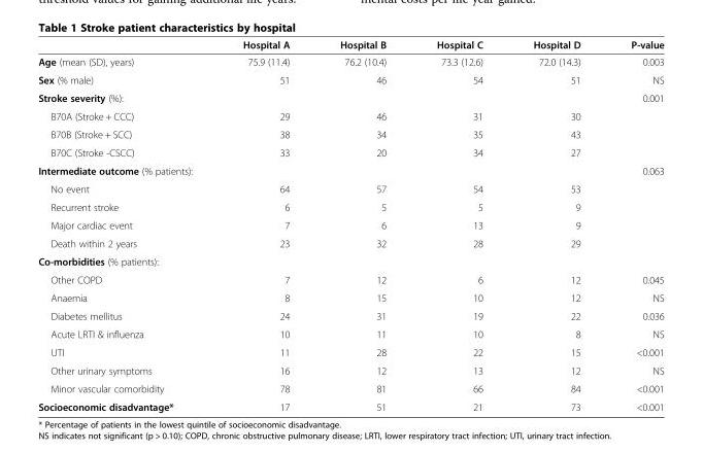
<table><thead><tr><td></td><td>Hospital A</td><td>Hospital B</td><td>Hospital C</td><td>Hospital D</td><td>P-value</td></tr></thead><tbody><tr><td>Age (mean (SD), years)</td><td>75.9 (11.4)</td><td>76.2 (10.4)</td><td>73.3 (12.6)</td><td>72.0 (14.3)</td><td>0.003</td></tr><tr><td>Sex (% male)</td><td>51</td><td>46</td><td>54</td><td>51</td><td>NS</td></tr><tr><td>Stroke severity (%):</td><td></td><td></td><td></td><td></td><td>0.001</td></tr><tr><td>B70A (Stroke + CCC)</td><td>29</td><td>46</td><td>31</td><td>30</td><td></td></tr><tr><td>B70B (Stroke + SCC)</td><td>38</td><td>34</td><td>35</td><td>43</td><td></td></tr><tr><td>B70C (Stroke -CSCC)</td><td>33</td><td>20</td><td>34</td><td>27</td><td></td></tr><tr><td>Intermediate outcome (% patients):</td><td></td><td></td><td></td><td></td><td>0.063</td></tr><tr><td>No event</td><td>64</td><td>57</td><td>54</td><td>53</td><td></td></tr><tr><td>Recurrent stroke</td><td>6</td><td>5</td><td>5</td><td>9</td><td></td></tr><tr><td>Major cardiac event</td><td>7</td><td>6</td><td>13</td><td>9</td><td></td></tr><tr><td>Death within 2 years</td><td>23</td><td>32</td><td>28</td><td>29</td><td></td></tr><tr><td colspan="6">Co-morbidities (% patients):</td></tr><tr><td>Other COPD</td><td>7</td><td>12</td><td>6</td><td>12</td><td>0.045</td></tr><tr><td>Anaemia</td><td>8</td><td>15</td><td>10</td><td>12</td><td>NS</td></tr><tr><td>Diabetes mellitus</td><td>24</td><td>31</td><td>19</td><td>22</td><td>0.036</td></tr><tr><td>Acute LRTI &amp; influenza</td><td>10</td><td>11</td><td>10</td><td>8</td><td>NS</td></tr><tr><td>UTI</td><td>11</td><td>28</td><td>22</td><td>15</td><td>&lt;0.001</td></tr><tr><td>Other urinary symptoms</td><td>16</td><td>12</td><td>13</td><td>12</td><td>NS</td></tr><tr><td>Minor vascular comorbidity</td><td>78</td><td>81</td><td>66</td><td>84</td><td>&lt;0.001</td></tr><tr><td>Socioeconomic disadvantage*</td><td>17</td><td>51</td><td>21</td><td>73</td><td>&lt;0.001</td></tr></tbody></table>